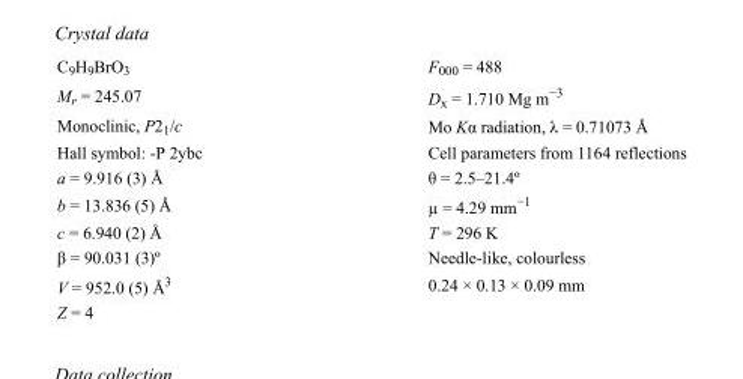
<table><tbody><tr><td>C<sub>9</sub>H<sub>9</sub>BrO<sub>3</sub></td><td>F000 = 488</td></tr><tr><td>M<sub>r</sub> = 245.07</td><td>D<sub>x</sub> = 1.710 Mg m<sup>−3</sup></td></tr><tr><td>Monoclinic, P2<sub>1</sub>/c</td><td>Mo Kα radiation, λ = 0.71073 Å</td></tr><tr><td>Hall symbol: -P 2ybc</td><td>Cell parameters from 1164 reflections</td></tr><tr><td>a = 9.916 (3) Å</td><td>θ = 2.5–21.4º</td></tr><tr><td>b = 13.836 (5) Å</td><td>µ = 4.29 mm<sup>−1</sup></td></tr><tr><td>c = 6.940 (2) Å</td><td>T = 296 K</td></tr><tr><td>β = 90.031 (3)º</td><td>Needle-like, colourless</td></tr><tr><td>V = 952.0 (5) Å<sup>3</sup></td><td>0.24 × 0.13 × 0.09 mm</td></tr><tr><td>Z = 4</td><td></td></tr></tbody></table>